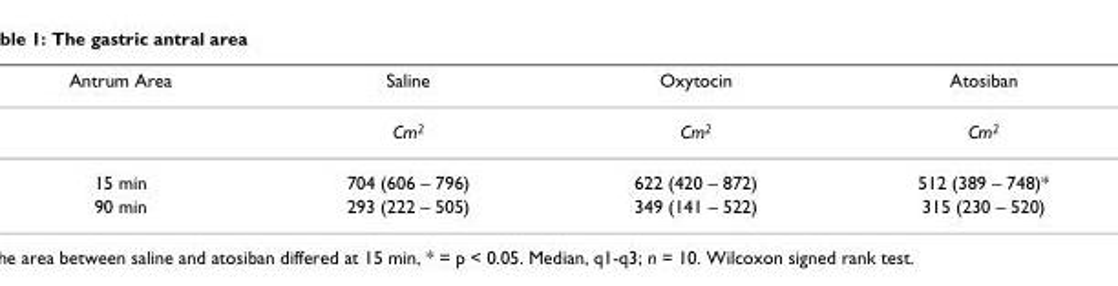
<table><thead><tr><td>Antrum Area</td><td>Saline</td><td>Oxytocin</td><td>Atosiban</td></tr></thead><tbody><tr><td></td><td>Cm2</td><td>Cm2</td><td>Cm2</td></tr><tr><td>15 min</td><td>704 (606 – 796)</td><td>622 (420 – 872)</td><td>512 (389 – 748)*</td></tr><tr><td>90 min</td><td>293 (222 – 505)</td><td>349 (141 – 522)</td><td>315 (230 – 520)</td></tr></tbody></table>